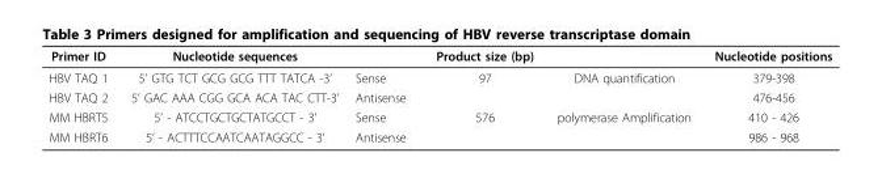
<table><thead><tr><td>Primer ID</td><td>Nucleotide sequences</td><td></td><td>Product size (bp)</td><td></td><td>Nucleotide positions</td></tr></thead><tbody><tr><td>HBV TAQ 1</td><td>5’ GTG TCT GCG GCG TTT TATCA -3’</td><td>Sense</td><td>97</td><td>DNA quantification</td><td>379-398</td></tr><tr><td>HBV TAQ 2</td><td>5’ GAC AAA CGG GCA ACA TAC CTT-3’</td><td>Antisense</td><td></td><td></td><td>476-456</td></tr><tr><td>MM HBRT5</td><td>5’ - ATCCTGCTGCTATGCCT - 3’</td><td>Sense</td><td>576</td><td>polymerase Amplification</td><td>410 - 426</td></tr><tr><td>MM HBRT6</td><td>5’ - ACTTTCCAATCAATAGGCC - 3’</td><td>Antisense</td><td></td><td></td><td>986 - 968</td></tr></tbody></table>